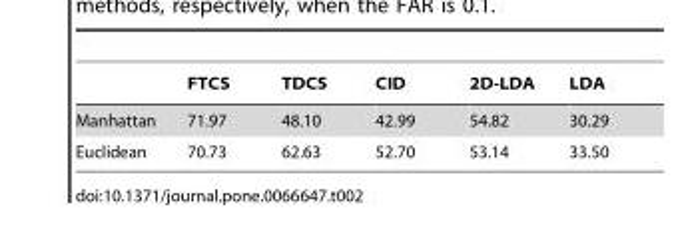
<table><thead><tr><td></td><td>FTCS</td><td>TDCS</td><td>CID</td><td>2D-LDA</td><td>LDA</td></tr></thead><tbody><tr><td>Manhattan</td><td>71.97</td><td>48.10</td><td>42.99</td><td>54.82</td><td>30.29</td></tr><tr><td>Euclidean</td><td>70.73</td><td>62.63</td><td>52.70</td><td>53.14</td><td>33.50</td></tr></tbody></table>